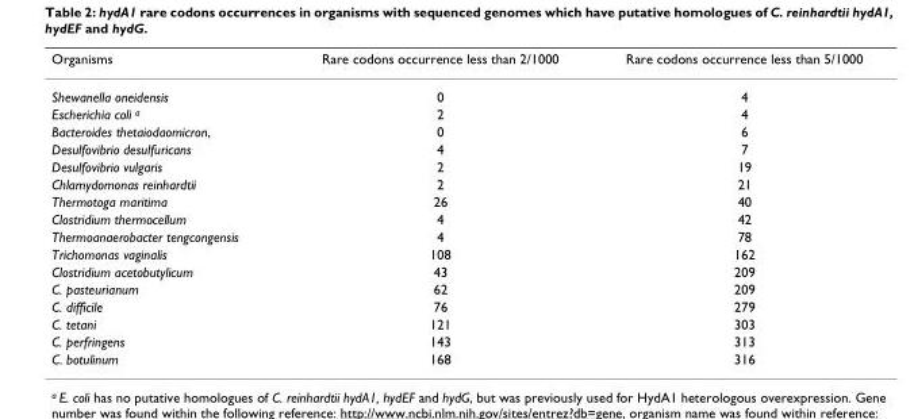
<table><thead><tr><td>Organisms</td><td>Rare codons occurrence less than 2/1000</td><td>Rare codons occurrence less than 5/1000</td></tr></thead><tbody><tr><td>Shewanella oneidensis</td><td>0</td><td>4</td></tr><tr><td>Escherichia coli <sup>a</sup></td><td>2</td><td>4</td></tr><tr><td>Bacteroides thetaiodaomicron,</td><td>0</td><td>6</td></tr><tr><td>Desulfovibrio desulfuricans</td><td>4</td><td>7</td></tr><tr><td>Desulfovibrio vulgaris</td><td>2</td><td>19</td></tr><tr><td>Chlamydomonas reinhardtii</td><td>2</td><td>21</td></tr><tr><td>Thermotoga maritima</td><td>26</td><td>40</td></tr><tr><td>Clostridium thermocellum</td><td>4</td><td>42</td></tr><tr><td>Thermoanaerobacter tengcongensis</td><td>4</td><td>78</td></tr><tr><td>Trichomonas vaginalis</td><td>108</td><td>162</td></tr><tr><td>Clostridium acetobutylicum</td><td>43</td><td>209</td></tr><tr><td>C. pasteurianum</td><td>62</td><td>209</td></tr><tr><td>C. difficile</td><td>76</td><td>279</td></tr><tr><td>C. tetani</td><td>121</td><td>303</td></tr><tr><td>C. perfringens</td><td>143</td><td>313</td></tr><tr><td>C. botulinum</td><td>168</td><td>316</td></tr></tbody></table>